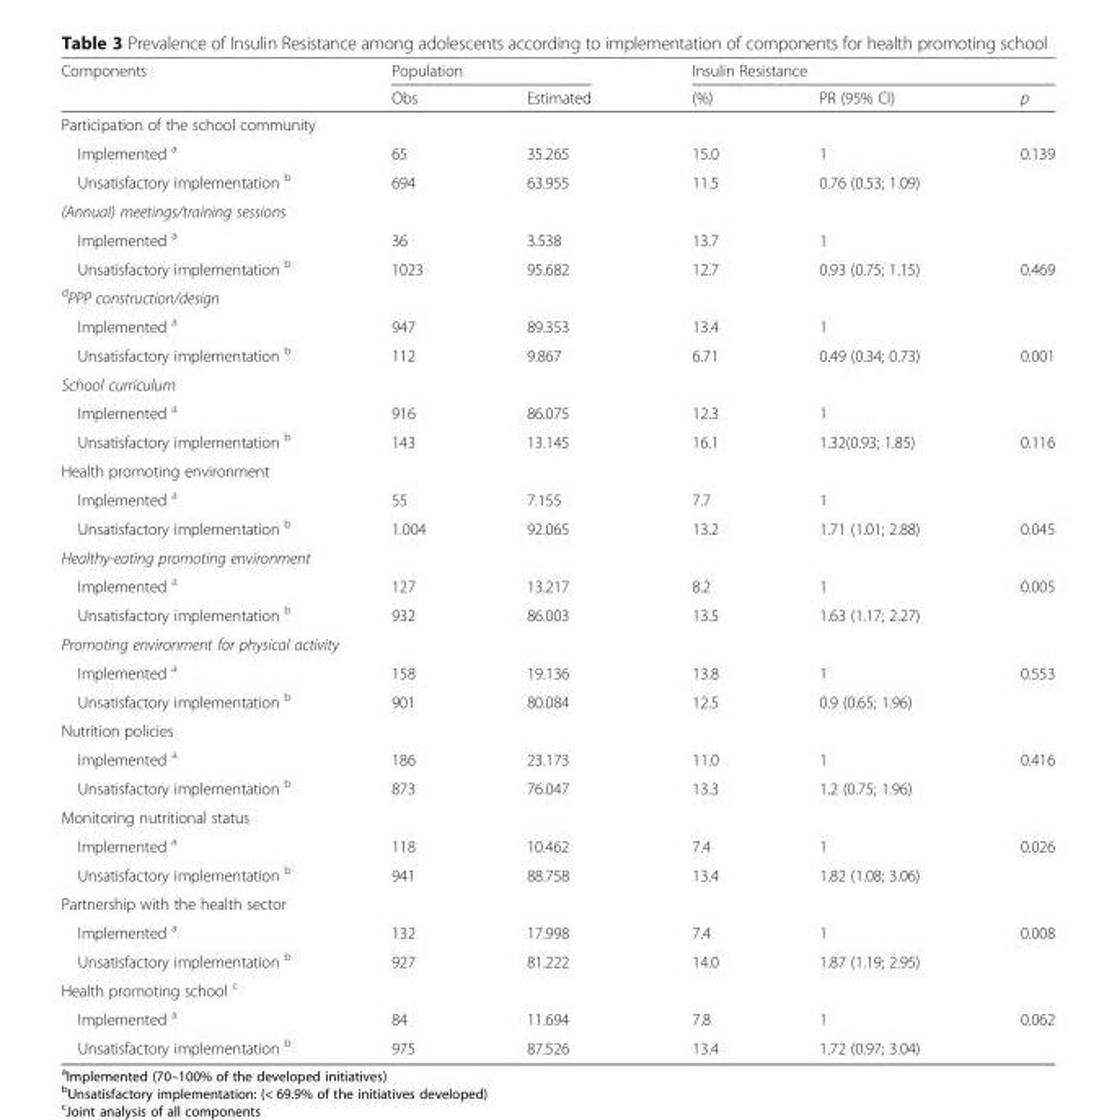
<table><thead><tr><td rowspan="2">Components</td><td colspan="2">Population</td><td colspan="3">Insulin Resistance</td></tr><tr><td>Obs</td><td>Estimated</td><td>(%)</td><td>PR (95% CI)</td><td>p</td></tr></thead><tbody><tr><td colspan="6">Participation of the school community</td></tr><tr><td>Implemented <sup>a</sup></td><td>65</td><td>35.265</td><td>15.0</td><td>1</td><td rowspan="2">0.139</td></tr><tr><td>Unsatisfactory implementation <sup>b</sup></td><td>694</td><td>63.955</td><td>11.5</td><td>0.76 (0.53; 1.09)</td></tr><tr><td colspan="6">(Annual) meetings/training sessions</td></tr><tr><td>Implemented <sup>a</sup></td><td>36</td><td>3.538</td><td>13.7</td><td>1</td><td></td></tr><tr><td>Unsatisfactory implementation <sup>b</sup></td><td>1023</td><td>95.682</td><td>12.7</td><td>0.93 (0.75; 1.15)</td><td>0.469</td></tr><tr><td colspan="6"><sup>d</sup>PPP construction/design</td></tr><tr><td>Implemented <sup>a</sup></td><td>947</td><td>89.353</td><td>13.4</td><td>1</td><td></td></tr><tr><td>Unsatisfactory implementation <sup>b</sup></td><td>112</td><td>9.867</td><td>6.71</td><td>0.49 (0.34; 0.73)</td><td>0.001</td></tr><tr><td colspan="6">School curriculum</td></tr><tr><td>Implemented <sup>a</sup></td><td>916</td><td>86.075</td><td>12.3</td><td>1</td><td></td></tr><tr><td>Unsatisfactory implementation <sup>b</sup></td><td>143</td><td>13.145</td><td>16.1</td><td>1.32(0.93; 1.85)</td><td>0.116</td></tr><tr><td colspan="6">Health promoting environment</td></tr><tr><td>Implemented <sup>a</sup></td><td>55</td><td>7.155</td><td>7.7</td><td>1</td><td></td></tr><tr><td>Unsatisfactory implementation <sup>b</sup></td><td>1.004</td><td>92.065</td><td>13.2</td><td>1.71 (1.01; 2.88)</td><td>0.045</td></tr><tr><td colspan="6">Healthy-eating promoting environment</td></tr><tr><td>Implemented <sup>a</sup></td><td>127</td><td>13.217</td><td>8.2</td><td>1</td><td rowspan="2">0.005</td></tr><tr><td>Unsatisfactory implementation <sup>b</sup></td><td>932</td><td>86.003</td><td>13.5</td><td>1.63 (1.17; 2.27)</td></tr><tr><td colspan="6">Promoting environment for physical activity</td></tr><tr><td>Implemented <sup>a</sup></td><td>158</td><td>19.136</td><td>13.8</td><td>1</td><td rowspan="2">0.553</td></tr><tr><td>Unsatisfactory implementation <sup>b</sup></td><td>901</td><td>80.084</td><td>12.5</td><td>0.9 (0.65; 1.96)</td></tr><tr><td colspan="6">Nutrition policies</td></tr><tr><td>Implemented <sup>a</sup></td><td>186</td><td>23.173</td><td>11.0</td><td>1</td><td rowspan="2">0.416</td></tr><tr><td>Unsatisfactory implementation <sup>b</sup></td><td>873</td><td>76.047</td><td>13.3</td><td>1.2 (0.75; 1.96)</td></tr><tr><td colspan="6">Monitoring nutritional status</td></tr><tr><td>Implemented <sup>a</sup></td><td>118</td><td>10.462</td><td>7.4</td><td>1</td><td rowspan="2">0.026</td></tr><tr><td>Unsatisfactory implementation <sup>b</sup></td><td>941</td><td>88.758</td><td>13.4</td><td>1.82 (1.08; 3.06)</td></tr><tr><td colspan="6">Partnership with the health sector</td></tr><tr><td>Implemented <sup>a</sup></td><td>132</td><td>17.998</td><td>7.4</td><td>1</td><td rowspan="2">0.008</td></tr><tr><td>Unsatisfactory implementation <sup>b</sup></td><td>927</td><td>81.222</td><td>14.0</td><td>1.87 (1.19; 2.95)</td></tr><tr><td colspan="6">Health promoting school <sup>c</sup></td></tr><tr><td>Implemented <sup>a</sup></td><td>84</td><td>11.694</td><td>7.8</td><td>1</td><td rowspan="2">0.062</td></tr><tr><td>Unsatisfactory implementation <sup>b</sup></td><td>975</td><td>87.526</td><td>13.4</td><td>1.72 (0.97; 3.04)</td></tr></tbody></table>